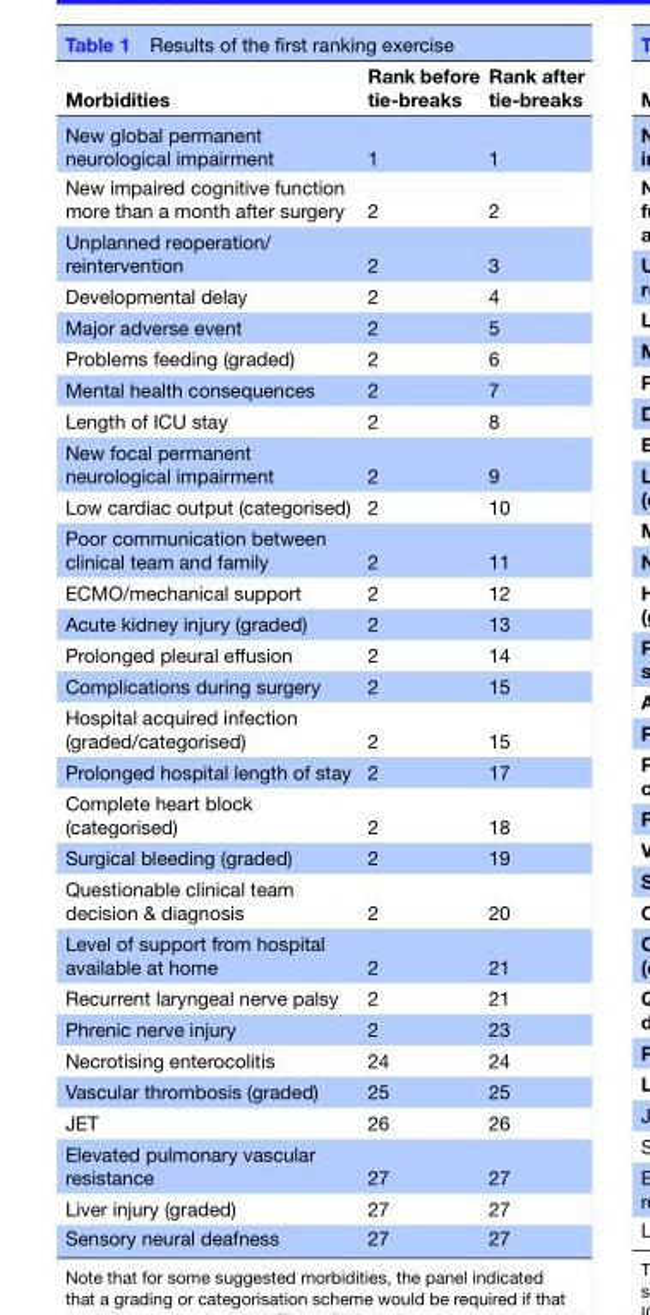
<table><thead><tr><td>Morbidities</td><td>Rank before tie-breaks</td><td>Rank after tie-breaks</td></tr></thead><tbody><tr><td>New global permanent neurological impairment</td><td>1</td><td>1</td></tr><tr><td>New impaired cognitive function more than a month after surgery</td><td>2</td><td>2</td></tr><tr><td>Unplanned reoperation/ reintervention</td><td>2</td><td>3</td></tr><tr><td>Developmental delay</td><td>2</td><td>4</td></tr><tr><td>Major adverse event</td><td>2</td><td>5</td></tr><tr><td>Problems feeding (graded)</td><td>2</td><td>6</td></tr><tr><td>Mental health consequences</td><td>2</td><td>7</td></tr><tr><td>Length of ICU stay</td><td>2</td><td>8</td></tr><tr><td>New focal permanent neurological impairment</td><td>2</td><td>9</td></tr><tr><td>Low cardiac output (categorised)</td><td>2</td><td>10</td></tr><tr><td>Poor communication between clinical team and family</td><td>2</td><td>11</td></tr><tr><td>ECMO/mechanical support</td><td>2</td><td>12</td></tr><tr><td>Acute kidney injury (graded)</td><td>2</td><td>13</td></tr><tr><td>Prolonged pleural effusion</td><td>2</td><td>14</td></tr><tr><td>Complications during surgery</td><td>2</td><td>15</td></tr><tr><td>Hospital acquired infection (graded/categorised)</td><td>2</td><td>15</td></tr><tr><td>Prolonged hospital length of stay</td><td>2</td><td>17</td></tr><tr><td>Complete heart block (categorised)</td><td>2</td><td>18</td></tr><tr><td>Surgical bleeding (graded)</td><td>2</td><td>19</td></tr><tr><td>Questionable clinical team decision &amp; diagnosis</td><td>2</td><td>20</td></tr><tr><td>Level of support from hospital available at home</td><td>2</td><td>21</td></tr><tr><td>Recurrent laryngeal nerve palsy</td><td>2</td><td>21</td></tr><tr><td>Phrenic nerve injury</td><td>2</td><td>23</td></tr><tr><td>Necrotising enterocolitis</td><td>24</td><td>24</td></tr><tr><td>Vascular thrombosis (graded)</td><td>25</td><td>25</td></tr><tr><td>JET</td><td>26</td><td>26</td></tr><tr><td>Elevated pulmonary vascular resistance</td><td>27</td><td>27</td></tr><tr><td>Liver injury (graded)</td><td>27</td><td>27</td></tr><tr><td>Sensory neural deafness</td><td>27</td><td>27</td></tr></tbody></table>